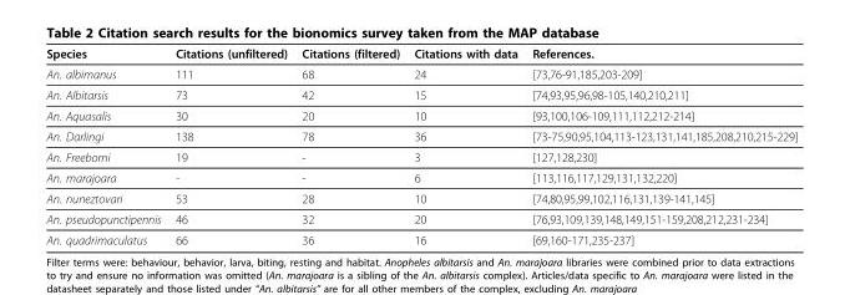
<table><thead><tr><td>Species</td><td>Citations (unfiltered)</td><td>Citations (filtered)</td><td>Citations with data</td><td>References.</td></tr></thead><tbody><tr><td>An. albimanus</td><td>111</td><td>68</td><td>24</td><td>[73,76-91,185,203-209]</td></tr><tr><td>An. Albitarsis</td><td>73</td><td>42</td><td>15</td><td>[74,93,95,96,98-105,140,210,211]</td></tr><tr><td>An. Aquasalis</td><td>30</td><td>20</td><td>10</td><td>[93,100,106-109,111,112,212-214]</td></tr><tr><td>An. Darlingi</td><td>138</td><td>78</td><td>36</td><td>[73-75,90,95,104,113-123,131,141,185,208,210,215-229]</td></tr><tr><td>An. Freeborni</td><td>19</td><td>-</td><td>3</td><td>[127,128,230]</td></tr><tr><td>An. marajoara</td><td>-</td><td>-</td><td>6</td><td>[113,116,117,129,131,132,220]</td></tr><tr><td>An. nuneztovari</td><td>53</td><td>28</td><td>10</td><td>[74,80,95,99,102,116,131,139-141,145]</td></tr><tr><td>An. pseudopunctipennis</td><td>46</td><td>32</td><td>20</td><td>[76,93,109,139,148,149,151-159,208,212,231-234]</td></tr><tr><td>An. quadrimaculatus</td><td>66</td><td>36</td><td>16</td><td>[69,160-171,235-237]</td></tr></tbody></table>